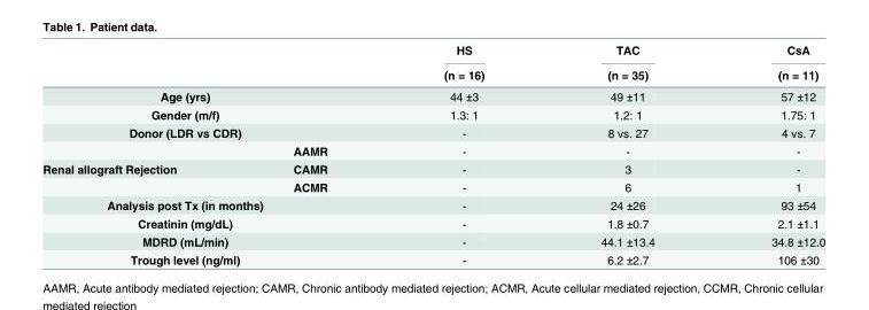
<table><thead><tr><td rowspan="2"></td><td rowspan="2"></td><td rowspan="2">HS (n = 16)</td><td rowspan="2">TAC (n = 35)</td><td rowspan="2">CsA (n = 11)</td></tr><tr></tr></thead><tbody><tr><td colspan="2">Age (yrs)</td><td>44 ±3</td><td>49 ±11</td><td>57 ±12</td></tr><tr><td colspan="2">Gender (m/f)</td><td>1.3: 1</td><td>1.2: 1</td><td>1.75: 1</td></tr><tr><td colspan="2">Donor (LDR vs CDR)</td><td>-</td><td>8 vs. 27</td><td>4 vs. 7</td></tr><tr><td></td><td>AAMR</td><td>-</td><td>-</td><td>-</td></tr><tr><td rowspan="2">Renal allograft Rejection</td><td>CAMR</td><td>-</td><td>3</td><td>-</td></tr><tr><td>ACMR</td><td>-</td><td>6</td><td>1</td></tr><tr><td colspan="2">Analysis post Tx (in months)</td><td>-</td><td>24 ±26</td><td>93 ±54</td></tr><tr><td colspan="2">Creatinin (mg/dL)</td><td>-</td><td>1.8 ±0.7</td><td>2.1 ±1.1</td></tr><tr><td colspan="2">MDRD (mL/min)</td><td>-</td><td>44.1 ±13.4</td><td>34.8 ±12.0</td></tr><tr><td colspan="2">Trough level (ng/ml)</td><td>-</td><td>6.2 ±2.7</td><td>106 ±30</td></tr></tbody></table>